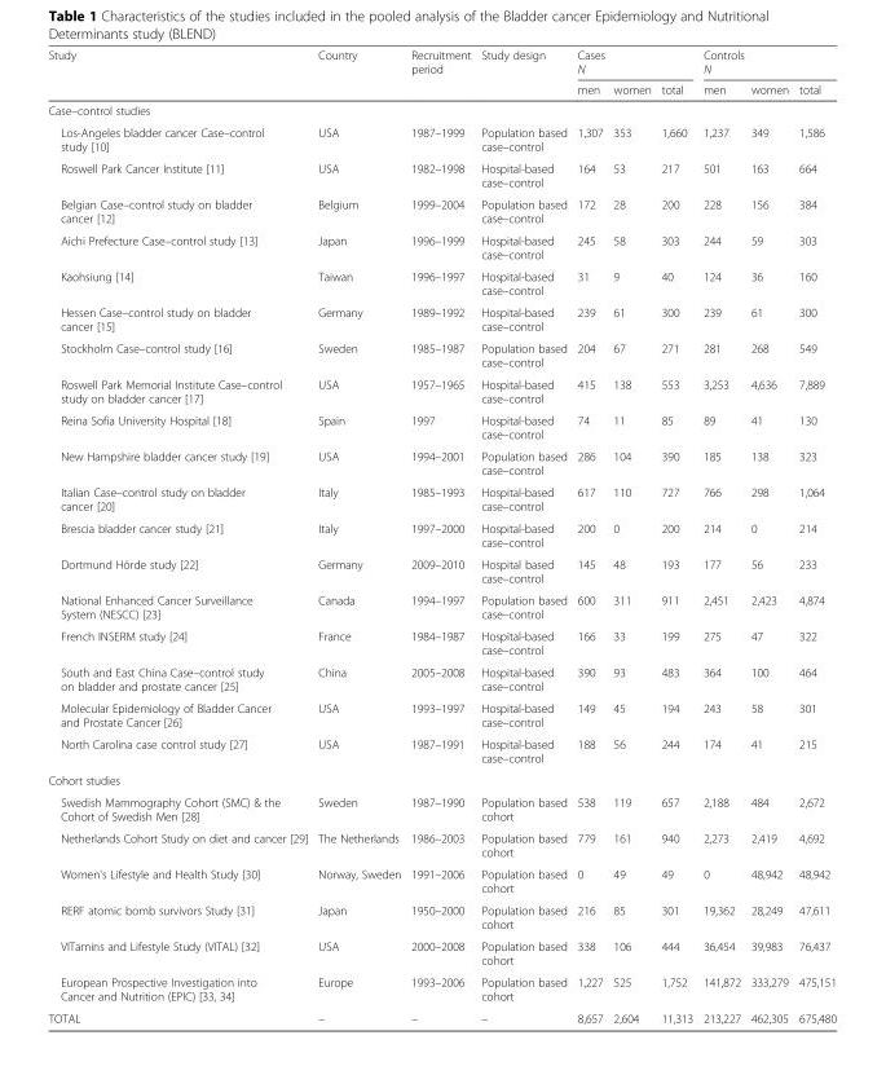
<table><thead><tr><td rowspan="2">Study</td><td rowspan="2">Country</td><td rowspan="2">Recruitment period</td><td rowspan="2">Study design</td><td colspan="3">Cases N</td><td colspan="3">Controls N</td></tr><tr><td>men</td><td>women</td><td>total</td><td>men</td><td>women</td><td>total</td></tr></thead><tbody><tr><td colspan="10">Case–control studies</td></tr><tr><td>Los-Angeles bladder cancer Case–control study [10]</td><td>USA</td><td>1987–1999</td><td>Population based case–control</td><td>1,307</td><td>353</td><td>1,660</td><td>1,237</td><td>349</td><td>1,586</td></tr><tr><td>Roswell Park Cancer Institute [11]</td><td>USA</td><td>1982–1998</td><td>Hospital-based case–control</td><td>164</td><td>53</td><td>217</td><td>501</td><td>163</td><td>664</td></tr><tr><td>Belgian Case–control study on bladder cancer [12]</td><td>Belgium</td><td>1999–2004</td><td>Population based case–control</td><td>172</td><td>28</td><td>200</td><td>228</td><td>156</td><td>384</td></tr><tr><td>Aichi Prefecture Case–control study [13]</td><td>Japan</td><td>1996–1999</td><td>Hospital-based case–control</td><td>245</td><td>58</td><td>303</td><td>244</td><td>59</td><td>303</td></tr><tr><td>Kaohsiung [14]</td><td>Taiwan</td><td>1996–1997</td><td>Hospital-based case–control</td><td>31</td><td>9</td><td>40</td><td>124</td><td>36</td><td>160</td></tr><tr><td>Hessen Case–control study on bladder cancer [15]</td><td>Germany</td><td>1989–1992</td><td>Hospital-based case–control</td><td>239</td><td>61</td><td>300</td><td>239</td><td>61</td><td>300</td></tr><tr><td>Stockholm Case–control study [16]</td><td>Sweden</td><td>1985–1987</td><td>Population based case–control</td><td>204</td><td>67</td><td>271</td><td>281</td><td>268</td><td>549</td></tr><tr><td>Roswell Park Memorial Institute Case–control study on bladder cancer [17]</td><td>USA</td><td>1957–1965</td><td>Hospital-based case–control</td><td>415</td><td>138</td><td>553</td><td>3,253</td><td>4,636</td><td>7,889</td></tr><tr><td>Reina Sofia University Hospital [18]</td><td>Spain</td><td>1997</td><td>Hospital-based case–control</td><td>74</td><td>11</td><td>85</td><td>89</td><td>41</td><td>130</td></tr><tr><td>New Hampshire bladder cancer study [19]</td><td>USA</td><td>1994–2001</td><td>Population based case–control</td><td>286</td><td>104</td><td>390</td><td>185</td><td>138</td><td>323</td></tr><tr><td>Italian Case–control study on bladder cancer [20]</td><td>Italy</td><td>1985–1993</td><td>Hospital-based case–control</td><td>617</td><td>110</td><td>727</td><td>766</td><td>298</td><td>1,064</td></tr><tr><td>Brescia bladder cancer study [21]</td><td>Italy</td><td>1997–2000</td><td>Hospital-based case–control</td><td>200</td><td>0</td><td>200</td><td>214</td><td>0</td><td>214</td></tr><tr><td>Dortmund Hörde study [22]</td><td>Germany</td><td>2009–2010</td><td>Hospital based case–control</td><td>145</td><td>48</td><td>193</td><td>177</td><td>56</td><td>233</td></tr><tr><td>National Enhanced Cancer Surveillance System (NESCC) [23]</td><td>Canada</td><td>1994–1997</td><td>Population based case–control</td><td>600</td><td>311</td><td>911</td><td>2,451</td><td>2,423</td><td>4,874</td></tr><tr><td>French INSERM study [24]</td><td>France</td><td>1984–1987</td><td>Hospital-based case–control</td><td>166</td><td>33</td><td>199</td><td>275</td><td>47</td><td>322</td></tr><tr><td>South and East China Case–control study on bladder and prostate cancer [25]</td><td>China</td><td>2005–2008</td><td>Hospital-based case–control</td><td>390</td><td>93</td><td>483</td><td>364</td><td>100</td><td>464</td></tr><tr><td>Molecular Epidemiology of Bladder Cancer and Prostate Cancer [26]</td><td>USA</td><td>1993–1997</td><td>Hospital-based case–control</td><td>149</td><td>45</td><td>194</td><td>243</td><td>58</td><td>301</td></tr><tr><td>North Carolina case control study [27]</td><td>USA</td><td>1987–1991</td><td>Hospital-based case–control</td><td>188</td><td>56</td><td>244</td><td>174</td><td>41</td><td>215</td></tr><tr><td colspan="10">Cohort studies</td></tr><tr><td>Swedish Mammography Cohort (SMC) &amp; the Cohort of Swedish Men [28]</td><td>Sweden</td><td>1987–1990</td><td>Population based cohort</td><td>538</td><td>119</td><td>657</td><td>2,188</td><td>484</td><td>2,672</td></tr><tr><td>Netherlands Cohort Study on diet and cancer [29]</td><td>The Netherlands</td><td>1986–2003</td><td>Population based cohort</td><td>779</td><td>161</td><td>940</td><td>2,273</td><td>2,419</td><td>4,692</td></tr><tr><td>Women&#x27;s Lifestyle and Health Study [30]</td><td>Norway, Sweden</td><td>1991–2006</td><td>Population based cohort</td><td>0</td><td>49</td><td>49</td><td>0</td><td>48,942</td><td>48,942</td></tr><tr><td>RERF atomic bomb survivors Study [31]</td><td>Japan</td><td>1950–2000</td><td>Population based cohort</td><td>216</td><td>85</td><td>301</td><td>19,362</td><td>28,249</td><td>47,611</td></tr><tr><td>VITamins and Lifestyle Study (VITAL) [32]</td><td>USA</td><td>2000–2008</td><td>Population based cohort</td><td>338</td><td>106</td><td>444</td><td>36,454</td><td>39,983</td><td>76,437</td></tr><tr><td>European Prospective Investigation into Cancer and Nutrition (EPIC) [33, 34]</td><td>Europe</td><td>1993–2006</td><td>Population based cohort</td><td>1,227</td><td>525</td><td>1,752</td><td>141,872</td><td>333,279</td><td>475,151</td></tr><tr><td>TOTAL</td><td>–</td><td>–</td><td>–</td><td>8,657</td><td>2,604</td><td>11,313</td><td>213,227</td><td>462,305</td><td>675,480</td></tr></tbody></table>